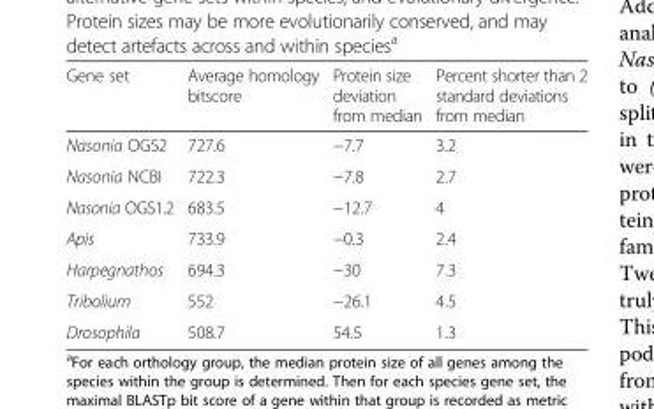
<table><thead><tr><td>Gene set</td><td>Average homology bitscore</td><td>Protein size deviation from median</td><td>Percent shorter than 2 standard deviations from median</td></tr></thead><tbody><tr><td>Nasonia OGS2</td><td>727.6</td><td>−7.7</td><td>3.2</td></tr><tr><td>Nasonia NCBI</td><td>722.3</td><td>−7.8</td><td>2.7</td></tr><tr><td>Nasonia OGS1.2</td><td>683.5</td><td>−12.7</td><td>4</td></tr><tr><td>Apis</td><td>733.9</td><td>−0.3</td><td>2.4</td></tr><tr><td>Harpegnathos</td><td>694.3</td><td>−30</td><td>7.3</td></tr><tr><td>Tribolium</td><td>552</td><td>−26.1</td><td>4.5</td></tr><tr><td>Drosophila</td><td>508.7</td><td>54.5</td><td>1.3</td></tr></tbody></table>